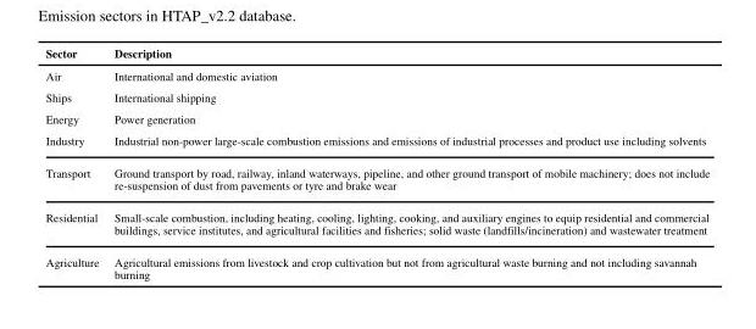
<table><thead><tr><td>Sector</td><td>Description</td></tr></thead><tbody><tr><td>Air</td><td>International and domestic aviation</td></tr><tr><td>Ships</td><td>International shipping</td></tr><tr><td>Energy</td><td>Power generation</td></tr><tr><td>Industry</td><td>Industrial non-power large-scale combustion emissions and emissions of industrial processes and product use including solvents</td></tr><tr><td>Transport</td><td>Ground transport by road, railway, inland waterways, pipeline, and other ground transport of mobile machinery; does not include re-suspension of dust from pavements or tyre and brake wear</td></tr><tr><td>Residential</td><td>Small-scale combustion, including heating, cooling, lighting, cooking, and auxiliary engines to equip residential and commercial buildings, service institutes, and agricultural facilities and fisheries; solid waste (landfills/incineration) and wastewater treatment</td></tr><tr><td>Agriculture</td><td>Agricultural emissions from livestock and crop cultivation but not from agricultural waste burning and not including savannah burning</td></tr></tbody></table>